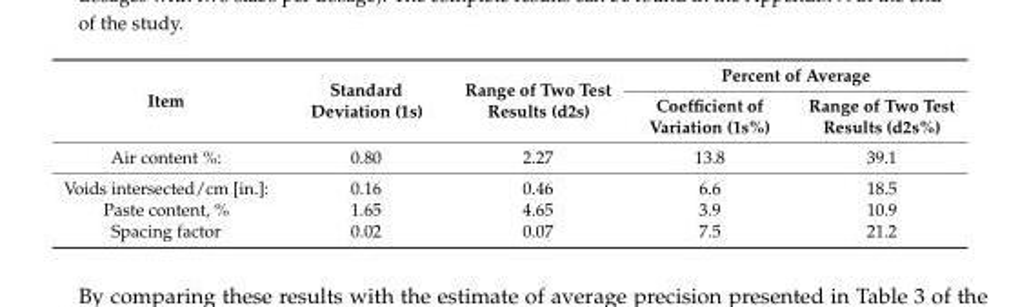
<table><thead><tr><td rowspan="2">Item</td><td rowspan="2">Standard Deviation (1s)</td><td rowspan="2">Range of Two Test Results (d2s)</td><td colspan="2">Percent of Average</td></tr><tr><td>Coefficient of Variation (1s%)</td><td>Range of Two Test Results (d2s%)</td></tr></thead><tbody><tr><td>Air content %:</td><td>0.80</td><td>2.27</td><td>13.8</td><td>39.1</td></tr><tr><td>Voids intersected/cm [in.]:</td><td>0.16</td><td>0.46</td><td>6.6</td><td>18.5</td></tr><tr><td>Paste content, %</td><td>1.65</td><td>4.65</td><td>3.9</td><td>10.9</td></tr><tr><td>Spacing factor</td><td>0.02</td><td>0.07</td><td>7.5</td><td>21.2</td></tr></tbody></table>